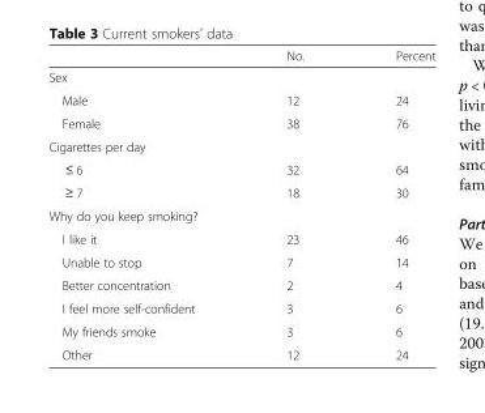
<table><thead><tr><td></td><td>No.</td><td>Percent</td></tr></thead><tbody><tr><td colspan="3">Sex</td></tr><tr><td>Male</td><td>12</td><td>24</td></tr><tr><td>Female</td><td>38</td><td>76</td></tr><tr><td colspan="3">Cigarettes per day</td></tr><tr><td>≤ 6</td><td>32</td><td>64</td></tr><tr><td>≥ 7</td><td>18</td><td>30</td></tr><tr><td colspan="3">Why do you keep smoking?</td></tr><tr><td>I like it</td><td>23</td><td>46</td></tr><tr><td>Unable to stop</td><td>7</td><td>14</td></tr><tr><td>Better concentration</td><td>2</td><td>4</td></tr><tr><td>I feel more self-confident</td><td>3</td><td>6</td></tr><tr><td>My friends smoke</td><td>3</td><td>6</td></tr><tr><td>Other</td><td>12</td><td>24</td></tr></tbody></table>